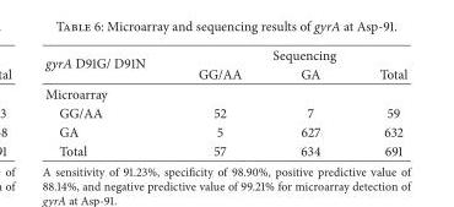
<table><thead><tr><td rowspan="2">gyrA D91G/ D91N</td><td colspan="3">Sequencing</td></tr><tr><td>GG/AA</td><td>GA</td><td>Total</td></tr></thead><tbody><tr><td colspan="4">Microarray</td></tr><tr><td>GG/AA</td><td>52</td><td>7</td><td>59</td></tr><tr><td>GA</td><td>5</td><td>627</td><td>632</td></tr><tr><td>Total</td><td>57</td><td>634</td><td>691</td></tr></tbody></table>